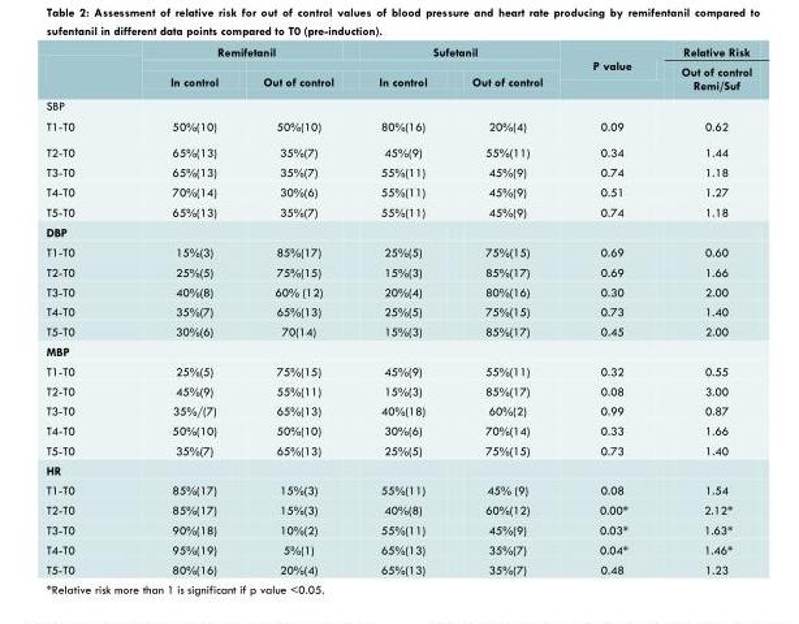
<table><thead><tr><td rowspan="2"></td><td colspan="2">Remifetanil</td><td colspan="2">Sufetanil</td><td rowspan="2">P value</td><td rowspan="2">Relative Risk Out of control Remi/Suf</td></tr><tr><td>In control</td><td>Out of control</td><td>In control</td><td>Out of control</td></tr></thead><tbody><tr><td colspan="7">SBP</td></tr><tr><td>T1-T0</td><td>50%(10)</td><td>50%(10)</td><td>80%(16)</td><td>20%(4)</td><td>0.09</td><td>0.62</td></tr><tr><td>T2-T0</td><td>65%(13)</td><td>35%(7)</td><td>45%(9)</td><td>55%(11)</td><td>0.34</td><td>1.44</td></tr><tr><td>T3-T0</td><td>65%(13)</td><td>35%(7)</td><td>55%(11)</td><td>45%(9)</td><td>0.74</td><td>1.18</td></tr><tr><td>T4-T0</td><td>70%(14)</td><td>30%(6)</td><td>55%(11)</td><td>45%(9)</td><td>0.51</td><td>1.27</td></tr><tr><td>T5-T0</td><td>65%(13)</td><td>35%(7)</td><td>55%(11)</td><td>45%(9)</td><td>0.74</td><td>1.18</td></tr><tr><td colspan="7">DBP</td></tr><tr><td>T1-T0</td><td>15%(3)</td><td>85%(17)</td><td>25%(5)</td><td>75%(15)</td><td>0.69</td><td>0.60</td></tr><tr><td>T2-T0</td><td>25%(5)</td><td>75%(15)</td><td>15%(3)</td><td>85%(17)</td><td>0.69</td><td>1.66</td></tr><tr><td>T3-T0</td><td>40%(8)</td><td>60% (12)</td><td>20%(4)</td><td>80%(16)</td><td>0.30</td><td>2.00</td></tr><tr><td>T4-T0</td><td>35%(7)</td><td>65%(13)</td><td>25%(5)</td><td>75%(15)</td><td>0.73</td><td>1.40</td></tr><tr><td>T5-T0</td><td>30%(6)</td><td>70(14)</td><td>15%(3)</td><td>85%(17)</td><td>0.45</td><td>2.00</td></tr><tr><td colspan="7">MBP</td></tr><tr><td>T1-T0</td><td>25%(5)</td><td>75%(15)</td><td>45%(9)</td><td>55%(11)</td><td>0.32</td><td>0.55</td></tr><tr><td>T2-T0</td><td>45%(9)</td><td>55%(11)</td><td>15%(3)</td><td>85%(17)</td><td>0.08</td><td>3.00</td></tr><tr><td>T3-T0</td><td>35%/(7)</td><td>65%(13)</td><td>40%(18)</td><td>60%(2)</td><td>0.99</td><td>0.87</td></tr><tr><td>T4-T0</td><td>50%(10)</td><td>50%(10)</td><td>30%(6)</td><td>70%(14)</td><td>0.33</td><td>1.66</td></tr><tr><td>T5-T0</td><td>35%(7)</td><td>65%(13)</td><td>25%(5)</td><td>75%(15)</td><td>0.73</td><td>1.40</td></tr><tr><td colspan="7">HR</td></tr><tr><td>T1-T0</td><td>85%(17)</td><td>15%(3)</td><td>55%(11)</td><td>45% (9)</td><td>0.08</td><td>1.54</td></tr><tr><td>T2-T0</td><td>85%(17)</td><td>15%(3)</td><td>40%(8)</td><td>60%(12)</td><td>0.00*</td><td>2.12*</td></tr><tr><td>T3-T0</td><td>90%(18)</td><td>10%(2)</td><td>55%(11)</td><td>45%(9)</td><td>0.03*</td><td>1.63*</td></tr><tr><td>T4-T0</td><td>95%(19)</td><td>5%(1)</td><td>65%(13)</td><td>35%(7)</td><td>0.04*</td><td>1.46*</td></tr><tr><td>T5-T0</td><td>80%(16)</td><td>20%(4)</td><td>65%(13)</td><td>35%(7)</td><td>0.48</td><td>1.23</td></tr></tbody></table>